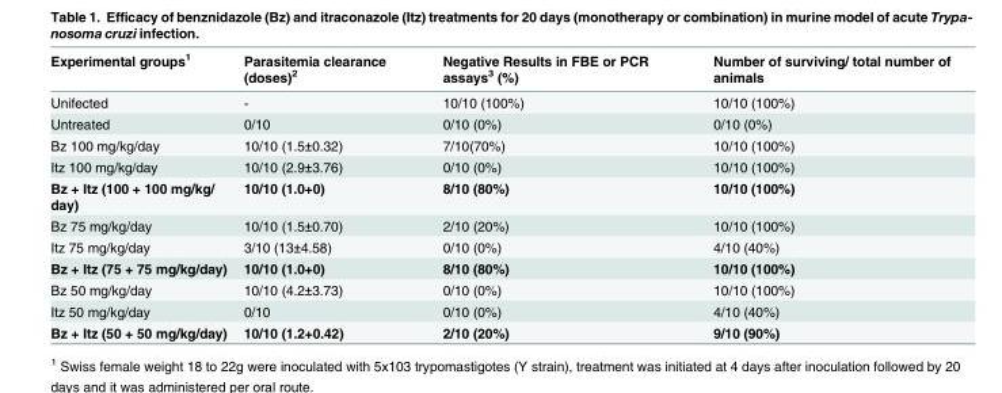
<table><thead><tr><td>Experimental groups<sup>1</sup></td><td>Parasitemia clearance (doses)<sup>2</sup></td><td>Negative Results in FBE or PCR assays<sup>3</sup> (%)</td><td>Number of surviving/ total number of animals</td></tr></thead><tbody><tr><td>Unifected</td><td>-</td><td>10/10 (100%)</td><td>10/10 (100%)</td></tr><tr><td>Untreated</td><td>0/10</td><td>0/10 (0%)</td><td>0/10 (0%)</td></tr><tr><td>Bz 100 mg/kg/day</td><td>10/10 (1.5±0.32)</td><td>7/10(70%)</td><td>10/10 (100%)</td></tr><tr><td>Itz 100 mg/kg/day</td><td>10/10 (2.9±3.76)</td><td>0/10 (0%)</td><td>10/10 (100%)</td></tr><tr><td>Bz + Itz (100 + 100 mg/kg/ day)</td><td>10/10 (1.0+0)</td><td>8/10 (80%)</td><td>10/10 (100%)</td></tr><tr><td>Bz 75 mg/kg/day</td><td>10/10 (1.5±0.70)</td><td>2/10 (20%)</td><td>10/10 (100%)</td></tr><tr><td>Itz 75 mg/kg/day</td><td>3/10 (13±4.58)</td><td>0/10 (0%)</td><td>4/10 (40%)</td></tr><tr><td>Bz + Itz (75 + 75 mg/kg/day)</td><td>10/10 (1.0+0)</td><td>8/10 (80%)</td><td>10/10 (100%)</td></tr><tr><td>Bz 50 mg/kg/day</td><td>10/10 (4.2±3.73)</td><td>0/10 (0%)</td><td>10/10 (100%)</td></tr><tr><td>Itz 50 mg/kg/day</td><td>0/10</td><td>0/10 (0%)</td><td>4/10 (40%)</td></tr><tr><td>Bz + Itz (50 + 50 mg/kg/day)</td><td>10/10 (1.2+0.42)</td><td>2/10 (20%)</td><td>9/10 (90%)</td></tr></tbody></table>